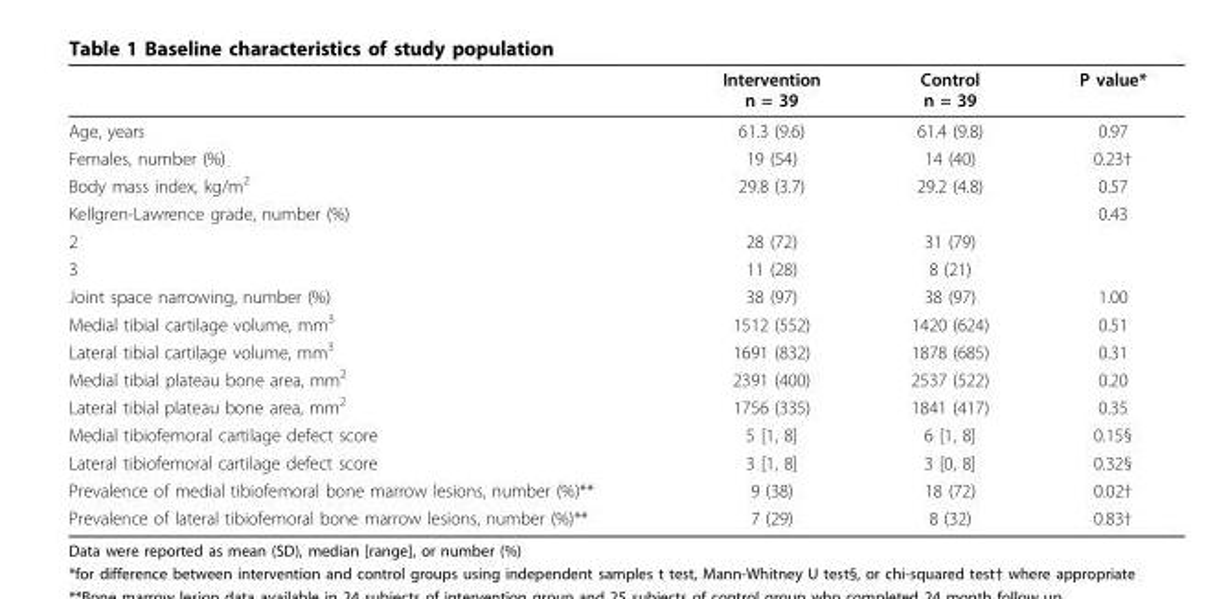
<table><thead><tr><td></td><td>Intervention n = 39</td><td>Control n = 39</td><td>P value*</td></tr></thead><tbody><tr><td>Age, years</td><td>61.3 (9.6)</td><td>61.4 (9.8)</td><td>0.97</td></tr><tr><td>Females, number (%)</td><td>19 (54)</td><td>14 (40)</td><td>0.23†</td></tr><tr><td>Body mass index, kg/m<sup>2</sup></td><td>29.8 (3.7)</td><td>29.2 (4.8)</td><td>0.57</td></tr><tr><td>Kellgren-Lawrence grade, number (%)</td><td></td><td></td><td>0.43</td></tr><tr><td>2</td><td>28 (72)</td><td>31 (79)</td><td></td></tr><tr><td>3</td><td>11 (28)</td><td>8 (21)</td><td></td></tr><tr><td>Joint space narrowing, number (%)</td><td>38 (97)</td><td>38 (97)</td><td>1.00</td></tr><tr><td>Medial tibial cartilage volume, mm<sup>3</sup></td><td>1512 (552)</td><td>1420 (624)</td><td>0.51</td></tr><tr><td>Lateral tibial cartilage volume, mm<sup>3</sup></td><td>1691 (832)</td><td>1878 (685)</td><td>0.31</td></tr><tr><td>Medial tibial plateau bone area, mm<sup>2</sup></td><td>2391 (400)</td><td>2537 (522)</td><td>0.20</td></tr><tr><td>Lateral tibial plateau bone area, mm<sup>2</sup></td><td>1756 (335)</td><td>1841 (417)</td><td>0.35</td></tr><tr><td>Medial tibiofemoral cartilage defect score</td><td>5 [1, 8]</td><td>6 [1, 8]</td><td>0.15§</td></tr><tr><td>Lateral tibiofemoral cartilage defect score</td><td>3 [1, 8]</td><td>3 [0, 8]</td><td>0.32§</td></tr><tr><td>Prevalence of medial tibiofemoral bone marrow lesions, number (%)**</td><td>9 (38)</td><td>18 (72)</td><td>0.02†</td></tr><tr><td>Prevalence of lateral tibiofemoral bone marrow lesions, number (%)**</td><td>7 (29)</td><td>8 (32)</td><td>0.83†</td></tr></tbody></table>